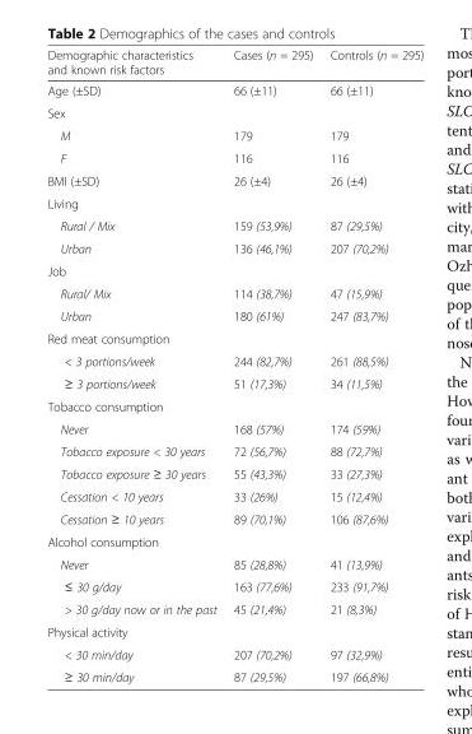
<table><thead><tr><td>Demographic characteristics and known risk factors</td><td>Cases (n = 295)</td><td>Controls (n = 295)</td></tr></thead><tbody><tr><td>Age (±SD)</td><td>66 (±11)</td><td>66 (±11)</td></tr><tr><td colspan="3">Sex</td></tr><tr><td>M</td><td>179</td><td>179</td></tr><tr><td>F</td><td>116</td><td>116</td></tr><tr><td>BMI (±SD)</td><td>26 (±4)</td><td>26 (±4)</td></tr><tr><td colspan="3">Living</td></tr><tr><td>Rural / Mix</td><td>159 (53,9%)</td><td>87 (29,5%)</td></tr><tr><td>Urban</td><td>136 (46,1%)</td><td>207 (70,2%)</td></tr><tr><td colspan="3">Job</td></tr><tr><td>Rural/ Mix</td><td>114 (38,7%)</td><td>47 (15,9%)</td></tr><tr><td>Urban</td><td>180 (61%)</td><td>247 (83,7%)</td></tr><tr><td colspan="3">Red meat consumption</td></tr><tr><td>&lt; 3 portions/week</td><td>244 (82,7%)</td><td>261 (88,5%)</td></tr><tr><td>≥ 3 portions/week</td><td>51 (17,3%)</td><td>34 (11,5%)</td></tr><tr><td colspan="3">Tobacco consumption</td></tr><tr><td>Never</td><td>168 (57%)</td><td>174 (59%)</td></tr><tr><td>Tobacco exposure &lt; 30 years</td><td>72 (56,7%)</td><td>88 (72,7%)</td></tr><tr><td>Tobacco exposure ≥ 30 years</td><td>55 (43,3%)</td><td>33 (27,3%)</td></tr><tr><td>Cessation &lt; 10 years</td><td>33 (26%)</td><td>15 (12,4%)</td></tr><tr><td>Cessation ≥ 10 years</td><td>89 (70,1%)</td><td>106 (87,6%)</td></tr><tr><td colspan="3">Alcohol consumption</td></tr><tr><td>Never</td><td>85 (28,8%)</td><td>41 (13,9%)</td></tr><tr><td>≤ 30 g/day</td><td>163 (77,6%)</td><td>233 (91,7%)</td></tr><tr><td>&gt; 30 g/day now or in the past</td><td>45 (21,4%)</td><td>21 (8,3%)</td></tr><tr><td colspan="3">Physical activity</td></tr><tr><td>&lt; 30 min/day</td><td>207 (70,2%)</td><td>97 (32,9%)</td></tr><tr><td>≥ 30 min/day</td><td>87 (29,5%)</td><td>197 (66,8%)</td></tr></tbody></table>